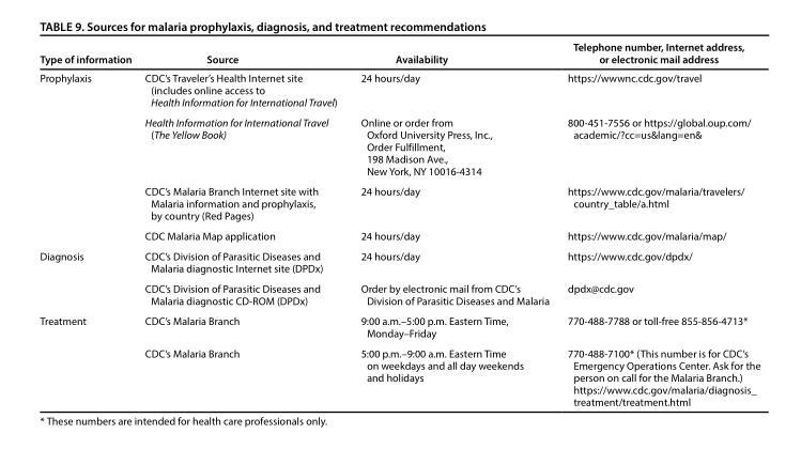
<table><thead><tr><td>Type of information</td><td>Source</td><td>Availability</td><td>Telephone number, Internet address, or electronic mail address</td></tr></thead><tbody><tr><td rowspan="4">Prophylaxis</td><td>CDC’s Traveler’s Health Internet site (includes online access to Health Information for International Travel)</td><td>24 hours/day</td><td>https://wwwnc.cdc.gov/travel</td></tr><tr><td>Health Information for International Travel (The Yellow Book)</td><td>Online or order from Oxford University Press, Inc., Order Fulfillment, 198 Madison Ave., New York, NY 10016-4314</td><td>800-451-7556 or https://global.oup.com/ academic/?cc=us&amp;lang=en&amp;</td></tr><tr><td>CDC’s Malaria Branch Internet site with Malaria information and prophylaxis, by country (Red Pages)</td><td>24 hours/day</td><td>https://www.cdc.gov/malaria/travelers/ country_table/a.html</td></tr><tr><td>CDC Malaria Map application</td><td>24 hours/day</td><td>https://www.cdc.gov/malaria/map/</td></tr><tr><td rowspan="2">Diagnosis</td><td>CDC’s Division of Parasitic Diseases and Malaria diagnostic Internet site (DPDx)</td><td>24 hours/day</td><td>https://www.cdc.gov/dpdx/</td></tr><tr><td>CDC’s Division of Parasitic Diseases and Malaria diagnostic CD-ROM (DPDx)</td><td>Order by electronic mail from CDC’s Division of Parasitic Diseases and Malaria</td><td>dpdx@cdc.gov</td></tr><tr><td rowspan="2">Treatment</td><td>CDC’s Malaria Branch</td><td>9:00 a.m.–5:00 p.m. Eastern Time, Monday–Friday</td><td>770-488-7788 or toll-free 855-856-4713*</td></tr><tr><td>CDC’s Malaria Branch</td><td>5:00 p.m.–9:00 a.m. Eastern Time on weekdays and all day weekends and holidays</td><td>770-488-7100* (This number is for CDC’s Emergency Operations Center. Ask for the person on call for the Malaria Branch.) https://www.cdc.gov/malaria/diagnosis_ treatment/treatment.html</td></tr></tbody></table>